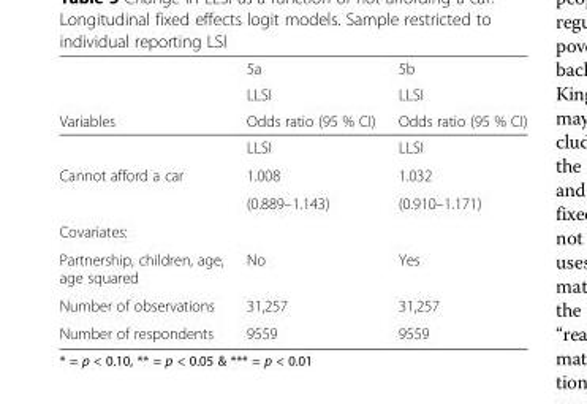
<table><thead><tr><td rowspan="3">Variables</td><td rowspan="3">5a LLSI Odds ratio (95 % CI)</td><td rowspan="3">5b LLSI Odds ratio (95 % CI)</td></tr><tr></tr><tr></tr></thead><tbody><tr><td></td><td>LLSI</td><td>LLSI</td></tr><tr><td rowspan="2">Cannot afford a car</td><td>1.008</td><td>1.032</td></tr><tr><td>(0.889–1.143)</td><td>(0.910–1.171)</td></tr><tr><td colspan="3">Covariates:</td></tr><tr><td>Partnership, children, age, age squared</td><td>No</td><td>Yes</td></tr><tr><td>Number of observations</td><td>31,257</td><td>31,257</td></tr><tr><td>Number of respondents</td><td>9559</td><td>9559</td></tr></tbody></table>